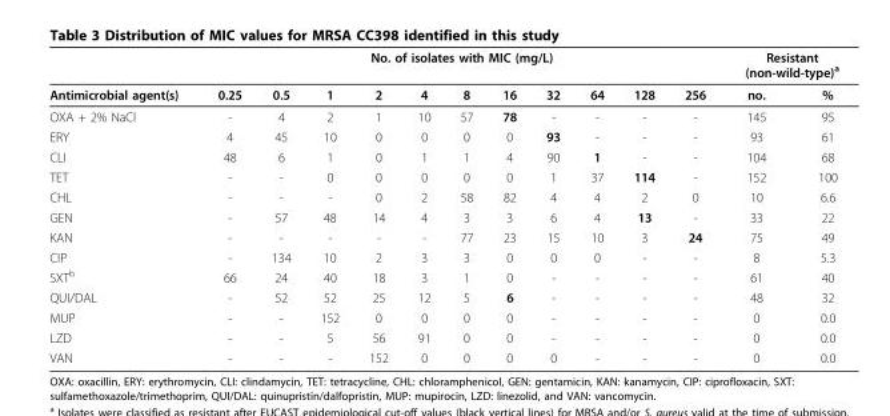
<table><thead><tr><td rowspan="2">Antimicrobial agent(s)</td><td colspan="11">No. of isolates with MIC (mg/L)</td><td colspan="2">Resistant (non-wild-type)<sup>a</sup></td></tr><tr><td>0.25</td><td>0.5</td><td>1</td><td>2</td><td>4</td><td>8</td><td>16</td><td>32</td><td>64</td><td>128</td><td>256</td><td>no.</td><td>%</td></tr></thead><tbody><tr><td>OXA + 2% NaCl</td><td>-</td><td>4</td><td>2</td><td>1</td><td>10</td><td>57</td><td>78</td><td>-</td><td>-</td><td>-</td><td>-</td><td>145</td><td>95</td></tr><tr><td>ERY</td><td>4</td><td>45</td><td>10</td><td>0</td><td>0</td><td>0</td><td>0</td><td>93</td><td>-</td><td>-</td><td>-</td><td>93</td><td>61</td></tr><tr><td>CLI</td><td>48</td><td>6</td><td>1</td><td>0</td><td>1</td><td>1</td><td>4</td><td>90</td><td>1</td><td>-</td><td>-</td><td>104</td><td>68</td></tr><tr><td>TET</td><td>-</td><td>-</td><td>0</td><td>0</td><td>0</td><td>0</td><td>0</td><td>1</td><td>37</td><td>114</td><td>-</td><td>152</td><td>100</td></tr><tr><td>CHL</td><td>-</td><td>-</td><td>-</td><td>0</td><td>2</td><td>58</td><td>82</td><td>4</td><td>4</td><td>2</td><td>0</td><td>10</td><td>6.6</td></tr><tr><td>GEN</td><td>-</td><td>57</td><td>48</td><td>14</td><td>4</td><td>3</td><td>3</td><td>6</td><td>4</td><td>13</td><td>-</td><td>33</td><td>22</td></tr><tr><td>KAN</td><td>-</td><td>-</td><td>-</td><td>-</td><td>-</td><td>77</td><td>23</td><td>15</td><td>10</td><td>3</td><td>24</td><td>75</td><td>49</td></tr><tr><td>CIP</td><td>-</td><td>134</td><td>10</td><td>2</td><td>3</td><td>3</td><td>0</td><td>0</td><td>0</td><td>-</td><td>-</td><td>8</td><td>5.3</td></tr><tr><td>SXT<sup>b</sup></td><td>66</td><td>24</td><td>40</td><td>18</td><td>3</td><td>1</td><td>0</td><td>-</td><td>-</td><td>-</td><td>-</td><td>61</td><td>40</td></tr><tr><td>QUI/DAL</td><td>-</td><td>52</td><td>52</td><td>25</td><td>12</td><td>5</td><td>6</td><td>-</td><td>-</td><td>-</td><td>-</td><td>48</td><td>32</td></tr><tr><td>MUP</td><td>-</td><td>-</td><td>152</td><td>0</td><td>0</td><td>0</td><td>0</td><td>-</td><td>-</td><td>-</td><td>-</td><td>0</td><td>0.0</td></tr><tr><td>LZD</td><td>-</td><td>-</td><td>5</td><td>56</td><td>91</td><td>0</td><td>0</td><td>-</td><td>-</td><td>-</td><td>-</td><td>0</td><td>0.0</td></tr><tr><td>VAN</td><td>-</td><td>-</td><td>-</td><td>152</td><td>0</td><td>0</td><td>0</td><td>0</td><td>-</td><td>-</td><td>-</td><td>0</td><td>0.0</td></tr></tbody></table>